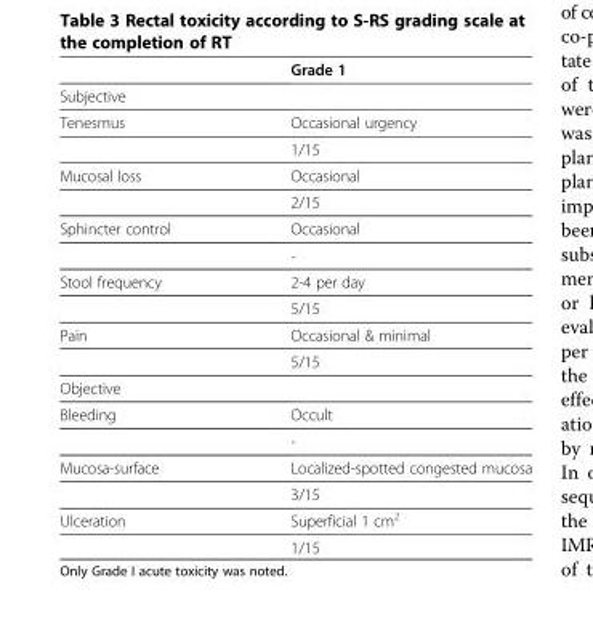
<table><thead><tr><td></td><td>Grade 1</td></tr></thead><tbody><tr><td colspan="2">Subjective</td></tr><tr><td rowspan="2">Tenesmus</td><td>Occasional urgency</td></tr><tr><td>1/15</td></tr><tr><td rowspan="2">Mucosal loss</td><td>Occasional</td></tr><tr><td>2/15</td></tr><tr><td rowspan="2">Sphincter control</td><td>Occasional</td></tr><tr><td>-</td></tr><tr><td rowspan="2">Stool frequency</td><td>2-4 per day</td></tr><tr><td>5/15</td></tr><tr><td rowspan="2">Pain</td><td>Occasional &amp; minimal</td></tr><tr><td>5/15</td></tr><tr><td colspan="2">Objective</td></tr><tr><td rowspan="2">Bleeding</td><td>Occult</td></tr><tr><td>-</td></tr><tr><td rowspan="2">Mucosa-surface</td><td>Localized-spotted congested mucosa</td></tr><tr><td>3/15</td></tr><tr><td rowspan="2">Ulceration</td><td>Superficial 1 cm<sup>2</sup></td></tr><tr><td>1/15</td></tr></tbody></table>